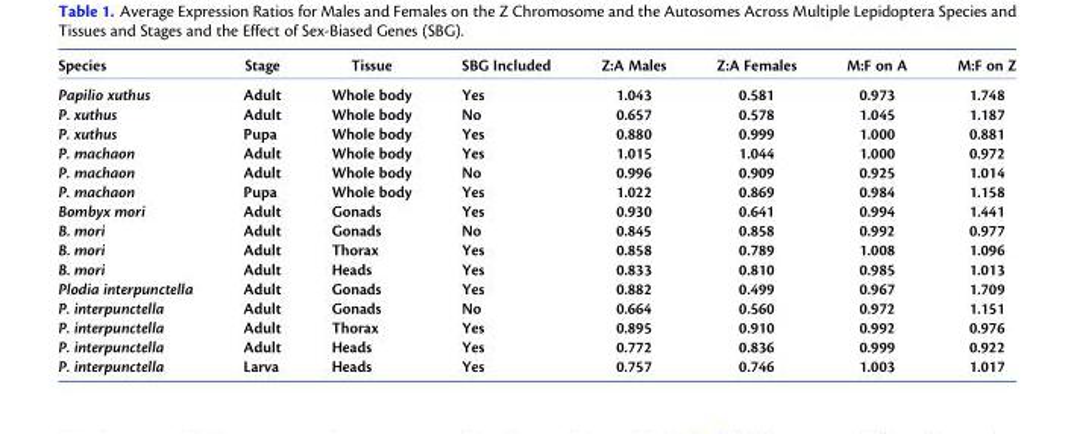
<table><thead><tr><td>Species</td><td>Stage</td><td>Tissue</td><td>SBG Included</td><td>Z:A Males</td><td>Z:A Females</td><td>M:F on A</td><td>M:F on Z</td></tr></thead><tbody><tr><td>Papilio xuthus</td><td>Adult</td><td>Whole body</td><td>Yes</td><td>1.043</td><td>0.581</td><td>0.973</td><td>1.748</td></tr><tr><td>P. xuthus</td><td>Adult</td><td>Whole body</td><td>No</td><td>0.657</td><td>0.578</td><td>1.045</td><td>1.187</td></tr><tr><td>P. xuthus</td><td>Pupa</td><td>Whole body</td><td>Yes</td><td>0.880</td><td>0.999</td><td>1.000</td><td>0.881</td></tr><tr><td>P. machaon</td><td>Adult</td><td>Whole body</td><td>Yes</td><td>1.015</td><td>1.044</td><td>1.000</td><td>0.972</td></tr><tr><td>P. machaon</td><td>Adult</td><td>Whole body</td><td>No</td><td>0.996</td><td>0.909</td><td>0.925</td><td>1.014</td></tr><tr><td>P. machaon</td><td>Pupa</td><td>Whole body</td><td>Yes</td><td>1.022</td><td>0.869</td><td>0.984</td><td>1.158</td></tr><tr><td>Bombyx mori</td><td>Adult</td><td>Gonads</td><td>Yes</td><td>0.930</td><td>0.641</td><td>0.994</td><td>1.441</td></tr><tr><td>B. mori</td><td>Adult</td><td>Gonads</td><td>No</td><td>0.845</td><td>0.858</td><td>0.992</td><td>0.977</td></tr><tr><td>B. mori</td><td>Adult</td><td>Thorax</td><td>Yes</td><td>0.858</td><td>0.789</td><td>1.008</td><td>1.096</td></tr><tr><td>B. mori</td><td>Adult</td><td>Heads</td><td>Yes</td><td>0.833</td><td>0.810</td><td>0.985</td><td>1.013</td></tr><tr><td>Plodia interpunctella</td><td>Adult</td><td>Gonads</td><td>Yes</td><td>0.882</td><td>0.499</td><td>0.967</td><td>1.709</td></tr><tr><td>P. interpunctella</td><td>Adult</td><td>Gonads</td><td>No</td><td>0.664</td><td>0.560</td><td>0.972</td><td>1.151</td></tr><tr><td>P. interpunctella</td><td>Adult</td><td>Thorax</td><td>Yes</td><td>0.895</td><td>0.910</td><td>0.992</td><td>0.976</td></tr><tr><td>P. interpunctella</td><td>Adult</td><td>Heads</td><td>Yes</td><td>0.772</td><td>0.836</td><td>0.999</td><td>0.922</td></tr><tr><td>P. interpunctella</td><td>Larva</td><td>Heads</td><td>Yes</td><td>0.757</td><td>0.746</td><td>1.003</td><td>1.017</td></tr></tbody></table>